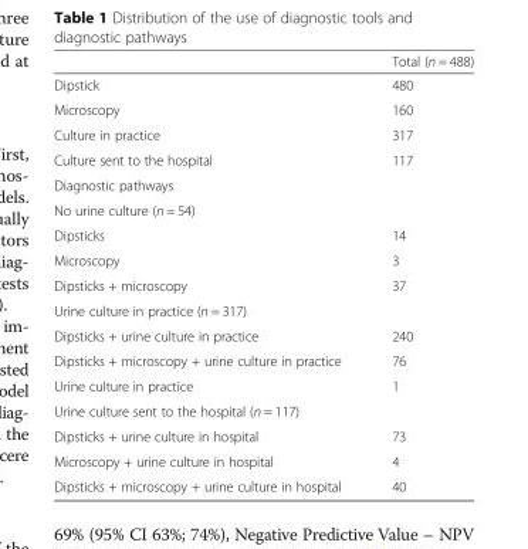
<table><thead><tr><td></td><td>Total (n = 488)</td></tr></thead><tbody><tr><td>Dipstick</td><td>480</td></tr><tr><td>Microscopy</td><td>160</td></tr><tr><td>Culture in practice</td><td>317</td></tr><tr><td>Culture sent to the hospital</td><td>117</td></tr><tr><td colspan="2">Diagnostic pathways</td></tr><tr><td colspan="2">No urine culture (n = 54)</td></tr><tr><td>Dipsticks</td><td>14</td></tr><tr><td>Microscopy</td><td>3</td></tr><tr><td>Dipsticks + microscopy</td><td>37</td></tr><tr><td colspan="2">Urine culture in practice (n = 317)</td></tr><tr><td>Dipsticks + urine culture in practice</td><td>240</td></tr><tr><td>Dipsticks + microscopy + urine culture in practice</td><td>76</td></tr><tr><td>Urine culture in practice</td><td>1</td></tr><tr><td colspan="2">Urine culture sent to the hospital (n = 117)</td></tr><tr><td>Dipsticks + urine culture in hospital</td><td>73</td></tr><tr><td>Microscopy + urine culture in hospital</td><td>4</td></tr><tr><td>Dipsticks + microscopy + urine culture in hospital</td><td>40</td></tr></tbody></table>